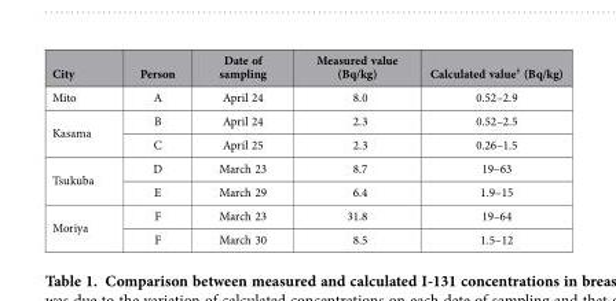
<table><thead><tr><td>City</td><td>Person</td><td>Date of sampling</td><td>Measured value (Bq/kg)</td><td>Calculated value† (Bq/kg)</td></tr></thead><tbody><tr><td>Mito</td><td>A</td><td>April 24</td><td>8.0</td><td>0.52–2.9</td></tr><tr><td rowspan="2">Kasama</td><td>B</td><td>April 24</td><td>2.3</td><td>0.52–2.5</td></tr><tr><td>C</td><td>April 25</td><td>2.3</td><td>0.26–1.5</td></tr><tr><td rowspan="2">Tsukuba</td><td>D</td><td>March 23</td><td>8.7</td><td>19–63</td></tr><tr><td>E</td><td>March 29</td><td>6.4</td><td>1.9–15</td></tr><tr><td rowspan="2">Moriya</td><td>F</td><td>March 23</td><td>31.8</td><td>19–64</td></tr><tr><td>F</td><td>March 30</td><td>8.5</td><td>1.5–12</td></tr></tbody></table>